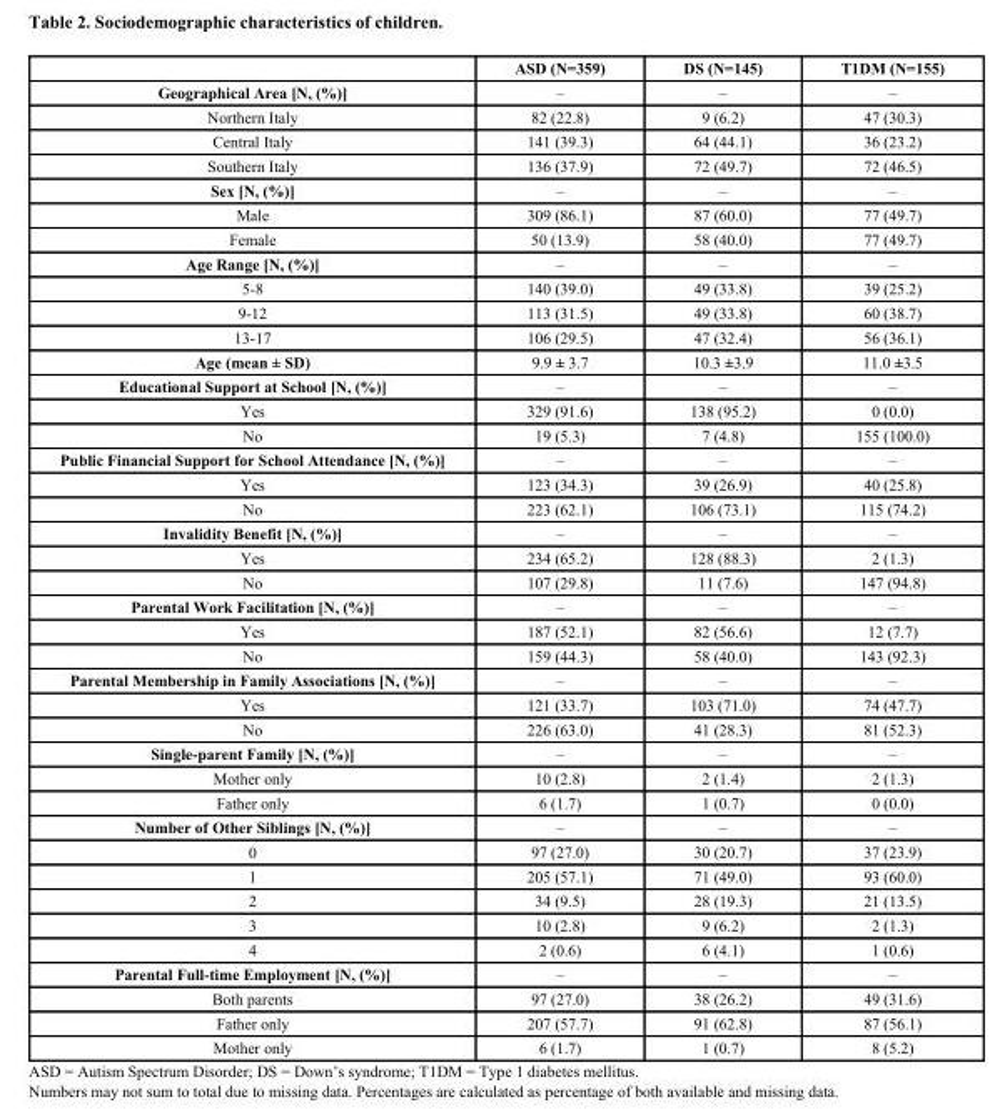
<table><thead><tr><td></td><td>ASD (N=359)</td><td>DS (N=145)</td><td>T1DM (N=155)</td></tr></thead><tbody><tr><td>Geographical Area [N, (%)]</td><td>–</td><td>–</td><td>–</td></tr><tr><td>Northern Italy</td><td>82 (22.8)</td><td>9 (6.2)</td><td>47 (30.3)</td></tr><tr><td>Central Italy</td><td>141 (39.3)</td><td>64 (44.1)</td><td>36 (23.2)</td></tr><tr><td>Southern Italy</td><td>136 (37.9)</td><td>72 (49.7)</td><td>72 (46.5)</td></tr><tr><td>Sex [N, (%)]</td><td>–</td><td>–</td><td>–</td></tr><tr><td>Male</td><td>309 (86.1)</td><td>87 (60.0)</td><td>77 (49.7)</td></tr><tr><td>Female</td><td>50 (13.9)</td><td>58 (40.0)</td><td>77 (49.7)</td></tr><tr><td>Age Range [N, (%)]</td><td>–</td><td>–</td><td>–</td></tr><tr><td>5-8</td><td>140 (39.0)</td><td>49 (33.8)</td><td>39 (25.2)</td></tr><tr><td>9-12</td><td>113 (31.5)</td><td>49 (33.8)</td><td>60 (38.7)</td></tr><tr><td>13-17</td><td>106 (29.5)</td><td>47 (32.4)</td><td>56 (36.1)</td></tr><tr><td>Age (mean ± SD)</td><td>9.9 ± 3.7</td><td>10.3 ±3.9</td><td>11.0 ±3.5</td></tr><tr><td>Educational Support at School [N, (%)]</td><td>–</td><td>–</td><td>–</td></tr><tr><td>Yes</td><td>329 (91.6)</td><td>138 (95.2)</td><td>0 (0.0)</td></tr><tr><td>No</td><td>19 (5.3)</td><td>7 (4.8)</td><td>155 (100.0)</td></tr><tr><td>Public Financial Support for School Attendance [N, (%)]</td><td>–</td><td>–</td><td>–</td></tr><tr><td>Yes</td><td>123 (34.3)</td><td>39 (26.9)</td><td>40 (25.8)</td></tr><tr><td>No</td><td>223 (62.1)</td><td>106 (73.1)</td><td>115 (74.2)</td></tr><tr><td>Invalidity Benefit [N, (%)]</td><td>–</td><td>–</td><td>–</td></tr><tr><td>Yes</td><td>234 (65.2)</td><td>128 (88.3)</td><td>2 (1.3)</td></tr><tr><td>No</td><td>107 (29.8)</td><td>11 (7.6)</td><td>147 (94.8)</td></tr><tr><td>Parental Work Facilitation [N, (%)]</td><td>–</td><td>–</td><td>–</td></tr><tr><td>Yes</td><td>187 (52.1)</td><td>82 (56.6)</td><td>12 (7.7)</td></tr><tr><td>No</td><td>159 (44.3)</td><td>58 (40.0)</td><td>143 (92.3)</td></tr><tr><td>Parental Membership in Family Associations [N, (%)]</td><td>–</td><td>–</td><td>–</td></tr><tr><td>Yes</td><td>121 (33.7)</td><td>103 (71.0)</td><td>74 (47.7)</td></tr><tr><td>No</td><td>226 (63.0)</td><td>41 (28.3)</td><td>81 (52.3)</td></tr><tr><td>Single-parent Family [N, (%)]</td><td>–</td><td>–</td><td>–</td></tr><tr><td>Mother only</td><td>10 (2.8)</td><td>2 (1.4)</td><td>2 (1.3)</td></tr><tr><td>Father only</td><td>6 (1.7)</td><td>1 (0.7)</td><td>0 (0.0)</td></tr><tr><td>Number of Other Siblings [N, (%)]</td><td>–</td><td>–</td><td>–</td></tr><tr><td>0</td><td>97 (27.0)</td><td>30 (20.7)</td><td>37 (23.9)</td></tr><tr><td>1</td><td>205 (57.1)</td><td>71 (49.0)</td><td>93 (60.0)</td></tr><tr><td>2</td><td>34 (9.5)</td><td>28 (19.3)</td><td>21 (13.5)</td></tr><tr><td>3</td><td>10 (2.8)</td><td>9 (6.2)</td><td>2 (1.3)</td></tr><tr><td>4</td><td>2 (0.6)</td><td>6 (4.1)</td><td>1 (0.6)</td></tr><tr><td>Parental Full-time Employment [N, (%)]</td><td>–</td><td>–</td><td>–</td></tr><tr><td>Both parents</td><td>97 (27.0)</td><td>38 (26.2)</td><td>49 (31.6)</td></tr><tr><td>Father only</td><td>207 (57.7)</td><td>91 (62.8)</td><td>87 (56.1)</td></tr><tr><td>Mother only</td><td>6 (1.7)</td><td>1 (0.7)</td><td>8 (5.2)</td></tr></tbody></table>